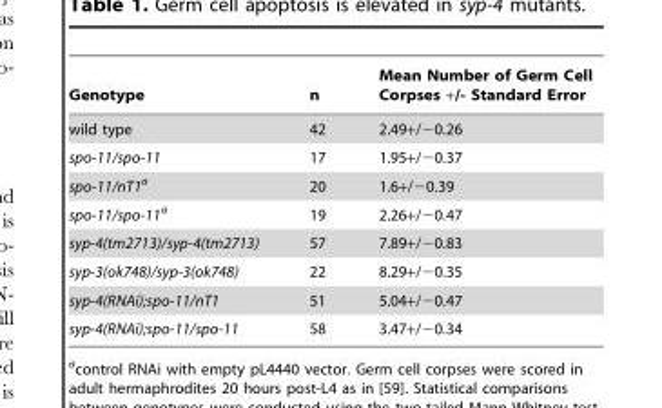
<table><thead><tr><td>Genotype</td><td>n</td><td>Mean Number of Germ Cell Corpses +/- Standard Error</td></tr></thead><tbody><tr><td>wild type</td><td>42</td><td>2.49+/−0.26</td></tr><tr><td>spo-11/spo-11</td><td>17</td><td>1.95+/−0.37</td></tr><tr><td>spo-11/nT1a</td><td>20</td><td>1.6+/−0.39</td></tr><tr><td>spo-11/spo-11a</td><td>19</td><td>2.26+/−0.47</td></tr><tr><td>syp-4(tm2713)/syp-4(tm2713)</td><td>57</td><td>7.89+/−0.83</td></tr><tr><td>syp-3(ok748)/syp-3(ok748)</td><td>22</td><td>8.29+/−0.35</td></tr><tr><td>syp-4(RNAi);spo-11/nT1</td><td>51</td><td>5.04+/−0.47</td></tr><tr><td>syp-4(RNAi);spo-11/spo-11</td><td>58</td><td>3.47+/−0.34</td></tr></tbody></table>